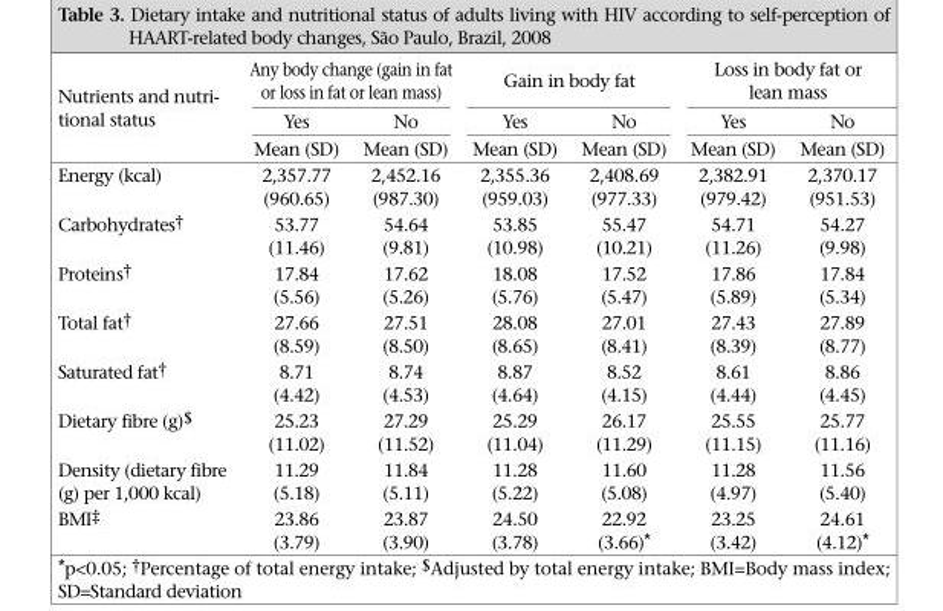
<table><thead><tr><td rowspan="3">Nutrients and nutri- tional status</td><td colspan="2">Any body change (gain in fat or loss in fat or lean mass)</td><td colspan="2">Gain in body fat</td><td colspan="2">Loss in body fat or lean mass</td></tr><tr><td rowspan="2">Yes Mean (SD)</td><td rowspan="2">No Mean (SD)</td><td rowspan="2">Yes Mean (SD)</td><td rowspan="2">No Mean (SD)</td><td rowspan="2">Yes Mean (SD)</td><td rowspan="2">No Mean (SD)</td></tr><tr></tr></thead><tbody><tr><td>Energy (kcal)</td><td>2,357.77 (960.65)</td><td>2,452.16 (987.30)</td><td>2,355.36 (959.03)</td><td>2,408.69 (977.33)</td><td>2,382.91 (979.42)</td><td>2,370.17 (951.53)</td></tr><tr><td>Carbohydrates†</td><td>53.77 (11.46)</td><td>54.64 (9.81)</td><td>53.85 (10.98)</td><td>55.47 (10.21)</td><td>54.71 (11.26)</td><td>54.27 (9.98)</td></tr><tr><td>Proteins†</td><td>17.84 (5.56)</td><td>17.62 (5.26)</td><td>18.08 (5.76)</td><td>17.52 (5.47)</td><td>17.86 (5.89)</td><td>17.84 (5.34)</td></tr><tr><td>Total fat†</td><td>27.66 (8.59)</td><td>27.51 (8.50)</td><td>28.08 (8.65)</td><td>27.01 (8.41)</td><td>27.43 (8.39)</td><td>27.89 (8.77)</td></tr><tr><td>Saturated fat†</td><td>8.71 (4.42)</td><td>8.74 (4.53)</td><td>8.87 (4.64)</td><td>8.52 (4.15)</td><td>8.61 (4.44)</td><td>8.86 (4.45)</td></tr><tr><td>Dietary fibre (g)$</td><td>25.23 (11.02)</td><td>27.29 (11.52)</td><td>25.29 (11.04)</td><td>26.17 (11.29)</td><td>25.55 (11.15)</td><td>25.77 (11.16)</td></tr><tr><td>Density (dietary fibre (g) per 1,000 kcal)</td><td>11.29 (5.18)</td><td>11.84 (5.11)</td><td>11.28 (5.22)</td><td>11.60 (5.08)</td><td>11.28 (4.97)</td><td>11.56 (5.40)</td></tr><tr><td>BMI‡</td><td>23.86 (3.79)</td><td>23.87 (3.90)</td><td>24.50 (3.78)</td><td>22.92 (3.66)*</td><td>23.25 (3.42)</td><td>24.61 (4.12)*</td></tr></tbody></table>